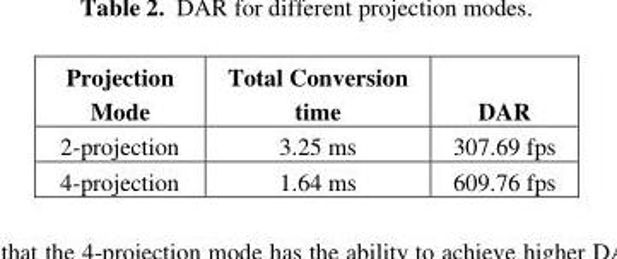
<table><thead><tr><td>Projection Mode</td><td>Total Conversion time</td><td>DAR</td></tr></thead><tbody><tr><td>2-projection</td><td>3.25 ms</td><td>307.69 fps</td></tr><tr><td>4-projection</td><td>1.64 ms</td><td>609.76 fps</td></tr></tbody></table>